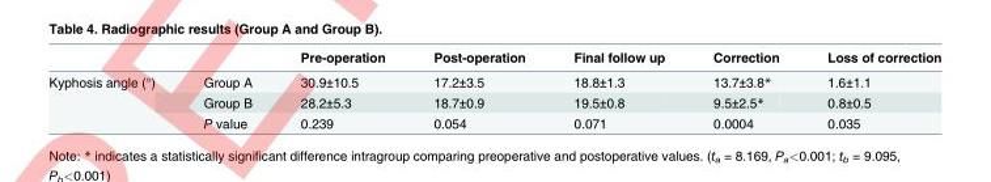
<table><thead><tr><td></td><td></td><td>Pre-operation</td><td>Post-operation</td><td>Final follow up</td><td>Correction</td><td>Loss of correction</td></tr></thead><tbody><tr><td rowspan="3">Kyphosis angle (°)</td><td>Group A</td><td>30.9±10.5</td><td>17.2±3.5</td><td>18.8±1.3</td><td>13.7±3.8*</td><td>1.6±1.1</td></tr><tr><td>Group B</td><td>28.2±5.3</td><td>18.7±0.9</td><td>19.5±0.8</td><td>9.5±2.5*</td><td>0.8±0.5</td></tr><tr><td>P value</td><td>0.239</td><td>0.054</td><td>0.071</td><td>0.0004</td><td>0.035</td></tr></tbody></table>